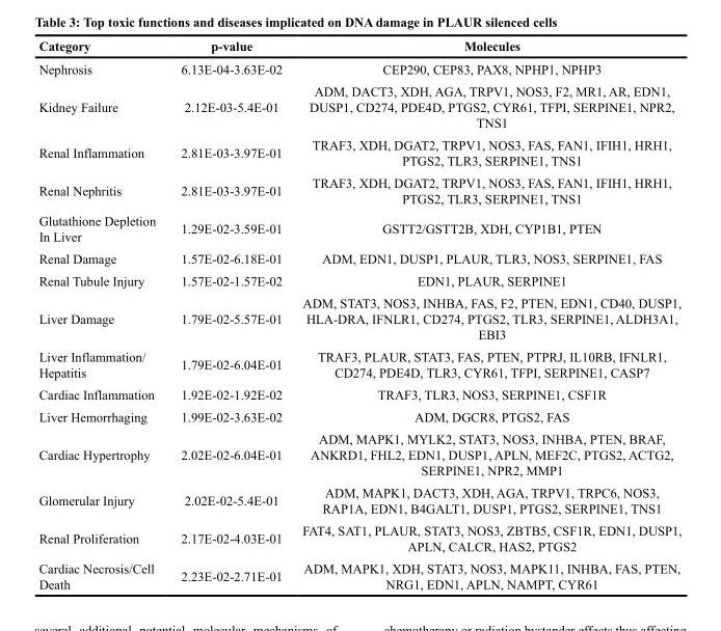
<table><thead><tr><td>Category</td><td>p-value</td><td>Molecules</td></tr></thead><tbody><tr><td>Nephrosis</td><td>6.13E-04-3.63E-02</td><td>CEP290, CEP83, PAX8, NPHP1, NPHP3</td></tr><tr><td>Kidney Failure</td><td>2.12E-03-5.4E-01</td><td>ADM, DACT3, XDH, AGA, TRPV1, NOS3, F2, MR1, AR, EDN1, DUSP1, CD274, PDE4D, PTGS2, CYR61, TFPI, SERPINE1, NPR2, TNS1</td></tr><tr><td>Renal Inflammation</td><td>2.81E-03-3.97E-01</td><td>TRAF3, XDH, DGAT2, TRPV1, NOS3, FAS, FAN1, IFIH1, HRH1, PTGS2, TLR3, SERPINE1, TNS1</td></tr><tr><td>Renal Nephritis</td><td>2.81E-03-3.97E-01</td><td>TRAF3, XDH, DGAT2, TRPV1, NOS3, FAS, FAN1, IFIH1, HRH1, PTGS2, TLR3, SERPINE1, TNS1</td></tr><tr><td>Glutathione Depletion In Liver</td><td>1.29E-02-3.59E-01</td><td>GSTT2/GSTT2B, XDH, CYP1B1, PTEN</td></tr><tr><td>Renal Damage</td><td>1.57E-02-6.18E-01</td><td>ADM, EDN1, DUSP1, PLAUR, TLR3, NOS3, SERPINE1, FAS</td></tr><tr><td>Renal Tubule Injury</td><td>1.57E-02-1.57E-02</td><td>EDN1, PLAUR, SERPINE1</td></tr><tr><td>Liver Damage</td><td>1.79E-02-5.57E-01</td><td>ADM, STAT3, NOS3, INHBA, FAS, F2, PTEN, EDN1, CD40, DUSP1, HLA-DRA, IFNLR1, CD274, PTGS2, TLR3, SERPINE1, ALDH3A1, EBI3</td></tr><tr><td>Liver Inflammation/ Hepatitis</td><td>1.79E-02-6.04E-01</td><td>TRAF3, PLAUR, STAT3, FAS, PTEN, PTPRJ, IL10RB, IFNLR1, CD274, PDE4D, TLR3, CYR61, TFPI, SERPINE1, CASP7</td></tr><tr><td>Cardiac Inflammation</td><td>1.92E-02-1.92E-02</td><td>TRAF3, TLR3, NOS3, SERPINE1, CSF1R</td></tr><tr><td>Liver Hemorrhaging</td><td>1.99E-02-3.63E-02</td><td>ADM, DGCR8, PTGS2, FAS</td></tr><tr><td>Cardiac Hypertrophy</td><td>2.02E-02-6.04E-01</td><td>ADM, MAPK1, MYLK2, STAT3, NOS3, INHBA, PTEN, BRAF, ANKRD1, FHL2, EDN1, DUSP1, APLN, MEF2C, PTGS2, ACTG2, SERPINE1, NPR2, MMP1</td></tr><tr><td>Glomerular Injury</td><td>2.02E-02-5.4E-01</td><td>ADM, MAPK1, DACT3, XDH, AGA, TRPV1, TRPC6, NOS3, RAP1A, EDN1, B4GALT1, DUSP1, PTGS2, SERPINE1, TNS1</td></tr><tr><td>Renal Proliferation</td><td>2.17E-02-4.03E-01</td><td>FAT4, SAT1, PLAUR, STAT3, NOS3, ZBTB5, CSF1R, EDN1, DUSP1, APLN, CALCR, HAS2, PTGS2</td></tr><tr><td>Cardiac Necrosis/Cell Death</td><td>2.23E-02-2.71E-01</td><td>ADM, MAPK1, XDH, STAT3, NOS3, MAPK11, INHBA, FAS, PTEN, NRG1, EDN1, APLN, NAMPT, CYR61</td></tr></tbody></table>